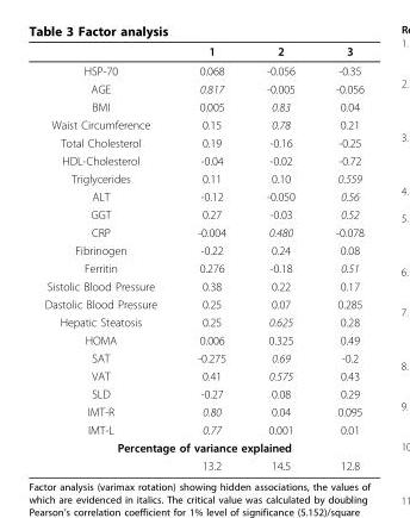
<table><thead><tr><td></td><td>1</td><td>2</td><td>3</td></tr></thead><tbody><tr><td>HSP-70</td><td>0.068</td><td>-0.056</td><td>-0.35</td></tr><tr><td>AGE</td><td>0.817</td><td>-0.005</td><td>-0.056</td></tr><tr><td>BMI</td><td>0.005</td><td>0.83</td><td>0.04</td></tr><tr><td>Waist Circumference</td><td>0.15</td><td>0.78</td><td>0.21</td></tr><tr><td>Total Cholesterol</td><td>0.19</td><td>-0.16</td><td>-0.25</td></tr><tr><td>HDL-Cholesterol</td><td>-0.04</td><td>-0.02</td><td>-0.72</td></tr><tr><td>Triglycerides</td><td>0.11</td><td>0.10</td><td>0.559</td></tr><tr><td>ALT</td><td>-0.12</td><td>-0.050</td><td>0.56</td></tr><tr><td>GGT</td><td>0.27</td><td>-0.03</td><td>0.52</td></tr><tr><td>CRP</td><td>-0.004</td><td>0.480</td><td>-0.078</td></tr><tr><td>Fibrinogen</td><td>-0.22</td><td>0.24</td><td>0.08</td></tr><tr><td>Ferritin</td><td>0.276</td><td>-0.18</td><td>0.51</td></tr><tr><td>Sistolic Blood Pressure</td><td>0.38</td><td>0.22</td><td>0.17</td></tr><tr><td>Dastolic Blood Pressure</td><td>0.25</td><td>0.07</td><td>0.285</td></tr><tr><td>Hepatic Steatosis</td><td>0.25</td><td>0.625</td><td>0.28</td></tr><tr><td>HOMA</td><td>0.006</td><td>0.325</td><td>0.49</td></tr><tr><td>SAT</td><td>-0.275</td><td>0.69</td><td>-0.2</td></tr><tr><td>VAT</td><td>0.41</td><td>0.575</td><td>0.43</td></tr><tr><td>SLD</td><td>-0.27</td><td>0.08</td><td>0.29</td></tr><tr><td>IMT-R</td><td>0.80</td><td>0.04</td><td>0.095</td></tr><tr><td>IMT-L</td><td>0.77</td><td>0.001</td><td>0.01</td></tr><tr><td colspan="4">Percentage of variance explained</td></tr><tr><td></td><td>13.2</td><td>14.5</td><td>12.8</td></tr></tbody></table>